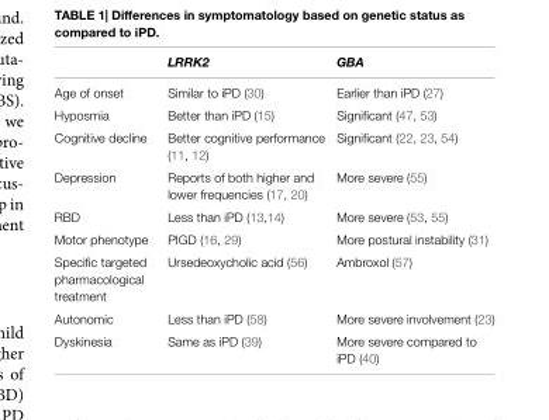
<table><thead><tr><td></td><td>LRRK2</td><td>GBA</td></tr></thead><tbody><tr><td>Age of onset</td><td>Similar to iPD (30)</td><td>Earlier than iPD (27)</td></tr><tr><td>Hyposmia</td><td>Better than iPD (15)</td><td>Significant (47, 53)</td></tr><tr><td>Cognitive decline</td><td>Better cognitive performance (11, 12)</td><td>Significant (22, 23, 54)</td></tr><tr><td>Depression</td><td>Reports of both higher and lower frequencies (17, 20)</td><td>More severe (55)</td></tr><tr><td>RBD</td><td>Less than iPD (13,14)</td><td>More severe (53, 55)</td></tr><tr><td>Motor phenotype</td><td>PIGD (16, 29)</td><td>More postural instability (31)</td></tr><tr><td>Specific targeted pharmacological treatment</td><td>Ursedeoxycholic acid (56)</td><td>Ambroxol (57)</td></tr><tr><td>Autonomic</td><td>Less than iPD (58)</td><td>More severe involvement (23)</td></tr><tr><td>Dyskinesia</td><td>Same as iPD (39)</td><td>More severe compared to iPD (40)</td></tr></tbody></table>